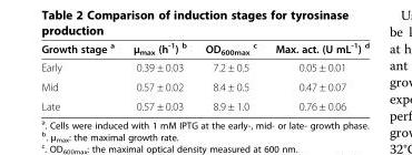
<table><thead><tr><td>Growth stage <sup>a</sup></td><td>μ<sub>max</sub> (h<sup>-1</sup>) <sup>b</sup></td><td>OD<sub>600max</sub> <sup>c</sup></td><td>Max. act. (U mL<sup>-1</sup>) <sup>d</sup></td></tr></thead><tbody><tr><td>Early</td><td>0.39 ± 0.03</td><td>7.2 ± 0.5</td><td>0.05 ± 0.01</td></tr><tr><td>Mid</td><td>0.57 ± 0.02</td><td>8.4 ± 0.5</td><td>0.47 ± 0.07</td></tr><tr><td>Late</td><td>0.57 ± 0.03</td><td>8.9 ± 1.0</td><td>0.76 ± 0.06</td></tr></tbody></table>